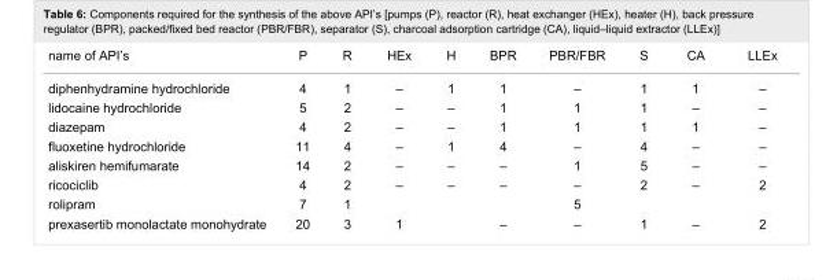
<table><tbody><tr><td>name of API’s</td><td>P</td><td>R</td><td>HEx</td><td>H</td><td>BPR</td><td>PBR/FBR</td><td>S</td><td>CA</td><td>LLEx</td></tr><tr><td>diphenhydramine hydrochloride</td><td>4</td><td>1</td><td>–</td><td>1</td><td>1</td><td>–</td><td>1</td><td>1</td><td>–</td></tr><tr><td>lidocaine hydrochloride</td><td>5</td><td>2</td><td>–</td><td>–</td><td>1</td><td>1</td><td>1</td><td>–</td><td>–</td></tr><tr><td>diazepam</td><td>4</td><td>2</td><td>–</td><td>–</td><td>1</td><td>1</td><td>1</td><td>1</td><td>–</td></tr><tr><td>fluoxetine hydrochloride</td><td>11</td><td>4</td><td>–</td><td>1</td><td>4</td><td>–</td><td>4</td><td>–</td><td>–</td></tr><tr><td>aliskiren hemifumarate</td><td>14</td><td>2</td><td>–</td><td>–</td><td>–</td><td>1</td><td>5</td><td>–</td><td>–</td></tr><tr><td>ricociclib</td><td>4</td><td>2</td><td>–</td><td>–</td><td>–</td><td>–</td><td>2</td><td>–</td><td>2</td></tr><tr><td>rolipram</td><td>7</td><td>1</td><td></td><td></td><td></td><td>5</td><td></td><td></td><td></td></tr><tr><td>prexasertib monolactate monohydrate</td><td>20</td><td>3</td><td>1</td><td></td><td>–</td><td>–</td><td>1</td><td>–</td><td>2</td></tr></tbody></table>